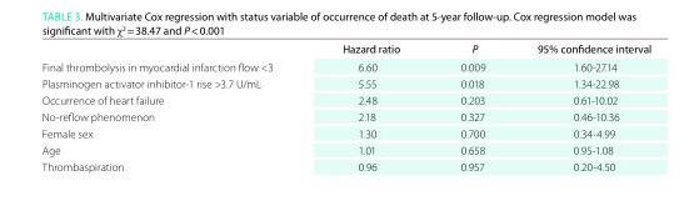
<table><thead><tr><td></td><td>Hazard ratio</td><td>P</td><td>95% confidence interval</td></tr></thead><tbody><tr><td>Final thrombolysis in myocardial infarction flow &lt;3</td><td>6.60</td><td>0.009</td><td>1.60-27.14</td></tr><tr><td>Plasminogen activator inhibitor-1 rise &gt;3.7 U/mL</td><td>5.55</td><td>0.018</td><td>1.34-22.98</td></tr><tr><td>Occurrence of heart failure</td><td>2.48</td><td>0.203</td><td>0.61-10.02</td></tr><tr><td>No-reflow phenomenon</td><td>2.18</td><td>0.327</td><td>0.46-10.36</td></tr><tr><td>Female sex</td><td>1.30</td><td>0.700</td><td>0.34-4.99</td></tr><tr><td>Age</td><td>1.01</td><td>0.658</td><td>0.95-1.08</td></tr><tr><td>Thrombaspiration</td><td>0.96</td><td>0.957</td><td>0.20-4.50</td></tr></tbody></table>